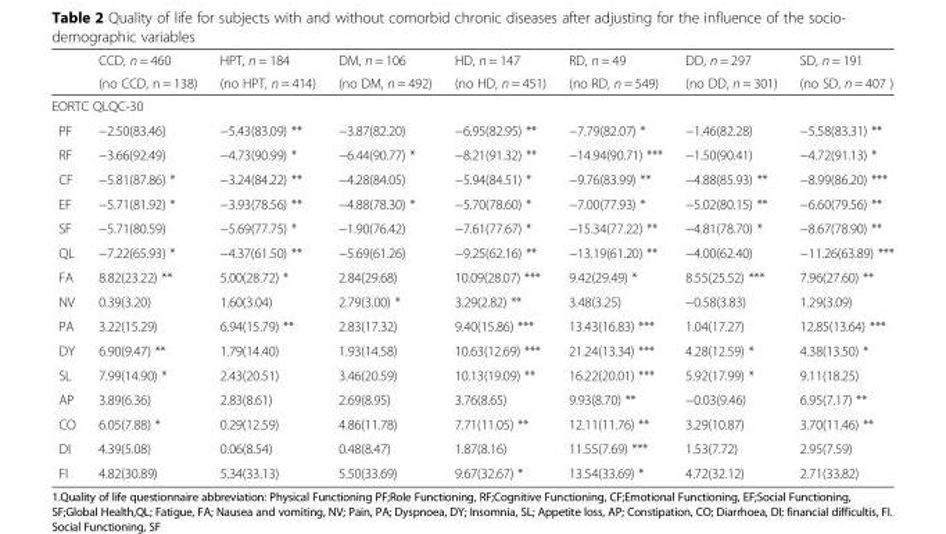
<table><thead><tr><td rowspan="2"></td><td rowspan="2">CCD, n = 460 (no CCD, n = 138)</td><td rowspan="2">HPT, n = 184 (no HPT, n = 414)</td><td rowspan="2">DM, n = 106 (no DM, n = 492)</td><td rowspan="2">HD, n = 147 (no HD, n = 451)</td><td rowspan="2">RD, n = 49 (no RD, n = 549)</td><td rowspan="2">DD, n = 297 (no DD, n = 301)</td><td rowspan="2">SD, n = 191 (no SD, n = 407 )</td></tr><tr></tr></thead><tbody><tr><td colspan="8">EORTC QLQC-30</td></tr><tr><td>PF</td><td>−2.50(83.46)</td><td>−5.43(83.09) **</td><td>−3.87(82.20)</td><td>−6.95(82.95) **</td><td>−7.79(82.07) *</td><td>−1.46(82.28)</td><td>−5.58(83.31) **</td></tr><tr><td>RF</td><td>−3.66(92.49)</td><td>−4.73(90.99) *</td><td>−6.44(90.77) *</td><td>−8.21(91.32) **</td><td>−14.94(90.71) ***</td><td>−1.50(90.41)</td><td>−4.72(91.13) *</td></tr><tr><td>CF</td><td>−5.81(87.86) *</td><td>−3.24(84.22) **</td><td>−4.28(84.05)</td><td>−5.94(84.51) *</td><td>−9.76(83.99) **</td><td>−4.88(85.93) **</td><td>−8.99(86.20) ***</td></tr><tr><td>EF</td><td>−5.71(81.92) *</td><td>−3.93(78.56) **</td><td>−4.88(78.30) *</td><td>−5.70(78.60) *</td><td>−7.00(77.93) *</td><td>−5.02(80.15) **</td><td>−6.60(79.56) **</td></tr><tr><td>SF</td><td>−5.71(80.59)</td><td>−5.69(77.75) *</td><td>−1.90(76.42)</td><td>−7.61(77.67) *</td><td>−15.34(77.22) **</td><td>−4.81(78.70) *</td><td>−8.67(78.90) **</td></tr><tr><td>QL</td><td>−7.22(65.93) *</td><td>−4.37(61.50) **</td><td>−5.69(61.26)</td><td>−9.25(62.16) **</td><td>−13.19(61.20) **</td><td>−4.00(62.40)</td><td>−11.26(63.89) ***</td></tr><tr><td>FA</td><td>8.82(23.22) **</td><td>5.00(28.72) *</td><td>2.84(29.68)</td><td>10.09(28.07) ***</td><td>9.42(29.49) *</td><td>8.55(25.52) ***</td><td>7.96(27.60) **</td></tr><tr><td>NV</td><td>0.39(3.20)</td><td>1.60(3.04)</td><td>2.79(3.00) *</td><td>3.29(2.82) **</td><td>3.48(3.25)</td><td>−0.58(3.83)</td><td>1.29(3.09)</td></tr><tr><td>PA</td><td>3.22(15.29)</td><td>6.94(15.79) **</td><td>2.83(17.32)</td><td>9.40(15.86) ***</td><td>13.43(16.83) ***</td><td>1.04(17.27)</td><td>12.85(13.64) ***</td></tr><tr><td>DY</td><td>6.90(9.47) **</td><td>1.79(14.40)</td><td>1.93(14.58)</td><td>10.63(12.69) ***</td><td>21.24(13.34) ***</td><td>4.28(12.59) *</td><td>4.38(13.50) *</td></tr><tr><td>SL</td><td>7.99(14.90) *</td><td>2.43(20.51)</td><td>3.46(20.59)</td><td>10.13(19.09) **</td><td>16.22(20.01) ***</td><td>5.92(17.99) *</td><td>9.11(18.25)</td></tr><tr><td>AP</td><td>3.89(6.36)</td><td>2.83(8.61)</td><td>2.69(8.95)</td><td>3.76(8.65)</td><td>9.93(8.70) **</td><td>−0.03(9.46)</td><td>6.95(7.17) **</td></tr><tr><td>CO</td><td>6.05(7.88) *</td><td>0.29(12.59)</td><td>4.86(11.78)</td><td>7.71(11.05) **</td><td>12.11(11.76) **</td><td>3.29(10.87)</td><td>3.70(11.46) **</td></tr><tr><td>DI</td><td>4.39(5.08)</td><td>0.06(8.54)</td><td>0.48(8.47)</td><td>1.87(8.16)</td><td>11.55(7.69) ***</td><td>1.53(7.72)</td><td>2.95(7.59)</td></tr><tr><td>FI</td><td>4.82(30.89)</td><td>5.34(33.13)</td><td>5.50(33.69)</td><td>9.67(32.67) *</td><td>13.54(33.69) *</td><td>4.72(32.12)</td><td>2.71(33.82)</td></tr></tbody></table>